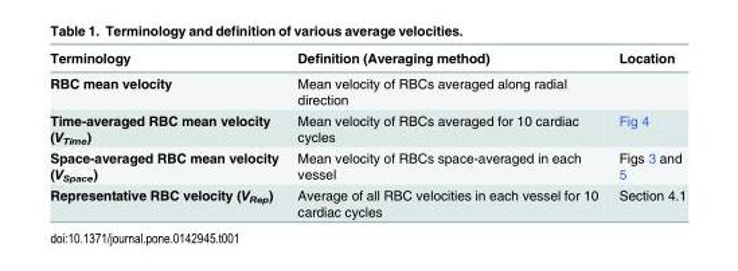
<table><thead><tr><td>Terminology</td><td>Definition (Averaging method)</td><td>Location</td></tr></thead><tbody><tr><td>RBC mean velocity</td><td>Mean velocity of RBCs averaged along radial direction</td><td></td></tr><tr><td>Time-averaged RBC mean velocity (V<sub>Time</sub>)</td><td>Mean velocity of RBCs averaged for 10 cardiac cycles</td><td>Fig 4</td></tr><tr><td>Space-averaged RBC mean velocity (V<sub>Space</sub>)</td><td>Mean velocity of RBCs space-averaged in each vessel</td><td>Figs 3 and 5</td></tr><tr><td>Representative RBC velocity (V<sub>Rep</sub>)</td><td>Average of all RBC velocities in each vessel for 10 cardiac cycles</td><td>Section 4.1</td></tr></tbody></table>